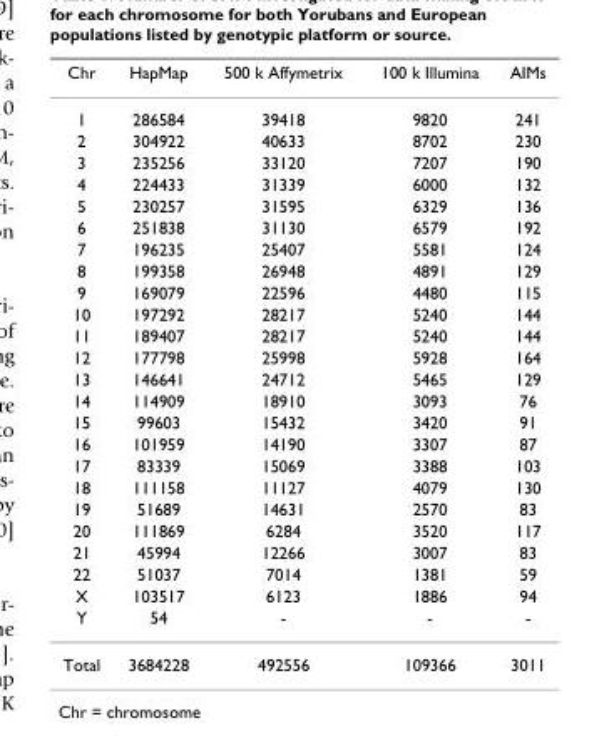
<table><thead><tr><td>Chr</td><td>HapMap</td><td>500 k Affymetrix</td><td>100 k Illumina</td><td>AIMs</td></tr></thead><tbody><tr><td>1</td><td>286584</td><td>39418</td><td>9820</td><td>241</td></tr><tr><td>2</td><td>304922</td><td>40633</td><td>8702</td><td>230</td></tr><tr><td>3</td><td>235256</td><td>33120</td><td>7207</td><td>190</td></tr><tr><td>4</td><td>224433</td><td>31339</td><td>6000</td><td>132</td></tr><tr><td>5</td><td>230257</td><td>31595</td><td>6329</td><td>136</td></tr><tr><td>6</td><td>251838</td><td>31130</td><td>6579</td><td>192</td></tr><tr><td>7</td><td>196235</td><td>25407</td><td>5581</td><td>124</td></tr><tr><td>8</td><td>199358</td><td>26948</td><td>4891</td><td>129</td></tr><tr><td>9</td><td>169079</td><td>22596</td><td>4480</td><td>115</td></tr><tr><td>10</td><td>197292</td><td>28217</td><td>5240</td><td>144</td></tr><tr><td>11</td><td>189407</td><td>28217</td><td>5240</td><td>144</td></tr><tr><td>12</td><td>177798</td><td>25998</td><td>5928</td><td>164</td></tr><tr><td>13</td><td>146641</td><td>24712</td><td>5465</td><td>129</td></tr><tr><td>14</td><td>114909</td><td>18910</td><td>3093</td><td>76</td></tr><tr><td>15</td><td>99603</td><td>15432</td><td>3420</td><td>91</td></tr><tr><td>16</td><td>101959</td><td>14190</td><td>3307</td><td>87</td></tr><tr><td>17</td><td>83339</td><td>15069</td><td>3388</td><td>103</td></tr><tr><td>18</td><td>111158</td><td>11127</td><td>4079</td><td>130</td></tr><tr><td>19</td><td>51689</td><td>14631</td><td>2570</td><td>83</td></tr><tr><td>20</td><td>111869</td><td>6284</td><td>3520</td><td>117</td></tr><tr><td>21</td><td>45994</td><td>12266</td><td>3007</td><td>83</td></tr><tr><td>22</td><td>51037</td><td>7014</td><td>1381</td><td>59</td></tr><tr><td>X</td><td>103517</td><td>6123</td><td>1886</td><td>94</td></tr><tr><td>Y</td><td>54</td><td>-</td><td>-</td><td>-</td></tr><tr><td>Total</td><td>3684228</td><td>492556</td><td>109366</td><td>3011</td></tr></tbody></table>